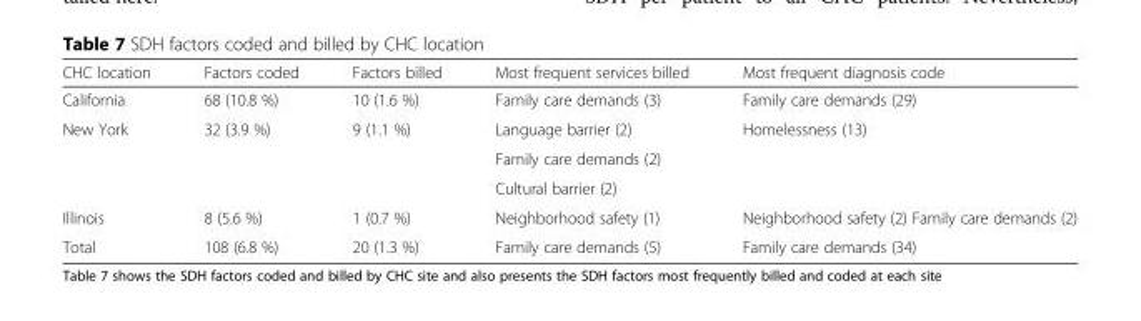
<table><thead><tr><td>CHC location</td><td>Factors coded</td><td>Factors billed</td><td>Most frequent services billed</td><td>Most frequent diagnosis code</td></tr></thead><tbody><tr><td>California</td><td>68 (10.8 %)</td><td>10 (1.6 %)</td><td>Family care demands (3)</td><td>Family care demands (29)</td></tr><tr><td rowspan="3">New York</td><td rowspan="3">32 (3.9 %)</td><td rowspan="3">9 (1.1 %)</td><td>Language barrier (2)</td><td rowspan="3">Homelessness (13)</td></tr><tr><td>Family care demands (2)</td></tr><tr><td>Cultural barrier (2)</td></tr><tr><td>Illinois</td><td>8 (5.6 %)</td><td>1 (0.7 %)</td><td>Neighborhood safety (1)</td><td>Neighborhood safety (2) Family care demands (2)</td></tr><tr><td>Total</td><td>108 (6.8 %)</td><td>20 (1.3 %)</td><td>Family care demands (5)</td><td>Family care demands (34)</td></tr></tbody></table>